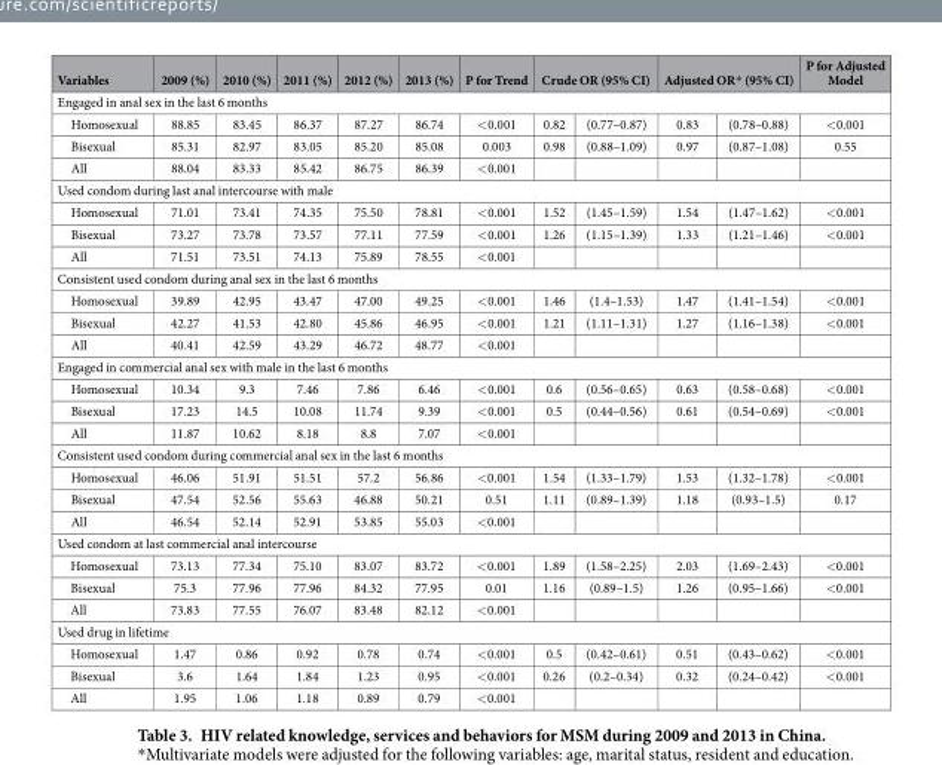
<table><thead><tr><td>Variables</td><td>2009 (%)</td><td>2010 (%)</td><td>2011 (%)</td><td>2012 (%)</td><td>2013 (%)</td><td>P for Trend</td><td colspan="2">Crude OR (95% CI)</td><td colspan="2">Adjusted OR* (95% CI)</td><td>P for Adjusted Model</td></tr><tr><td colspan="12">Engaged in anal sex in the last 6 months</td></tr><tr><td>Homosexual</td><td>88.85</td><td>83.45</td><td>86.37</td><td>87.27</td><td>86.74</td><td>&lt; 0.001</td><td>0.82</td><td>(0.77–0.87)</td><td>0.83</td><td>(0.78–0.88)</td><td>&lt; 0.001</td></tr></thead><tbody><tr><td>Bisexual</td><td>85.31</td><td>82.97</td><td>83.05</td><td>85.20</td><td>85.08</td><td>0.003</td><td>0.98</td><td>(0.88–1.09)</td><td>0.97</td><td>(0.87–1.08)</td><td>0.55</td></tr><tr><td>All</td><td>88.04</td><td>83.33</td><td>85.42</td><td>86.75</td><td>86.39</td><td>&lt; 0.001</td><td></td><td></td><td></td><td></td><td></td></tr><tr><td colspan="12">Used condom during last anal intercourse with male</td></tr><tr><td>Homosexual</td><td>71.01</td><td>73.41</td><td>74.35</td><td>75.50</td><td>78.81</td><td>&lt; 0.001</td><td>1.52</td><td>(1.45–1.59)</td><td>1.54</td><td>(1.47–1.62)</td><td>&lt; 0.001</td></tr><tr><td>Bisexual</td><td>73.27</td><td>73.78</td><td>73.57</td><td>77.11</td><td>77.59</td><td>&lt; 0.001</td><td>1.26</td><td>(1.15–1.39)</td><td>1.33</td><td>(1.21–1.46)</td><td>&lt; 0.001</td></tr><tr><td>All</td><td>71.51</td><td>73.51</td><td>74.13</td><td>75.89</td><td>78.55</td><td>&lt; 0.001</td><td></td><td></td><td></td><td></td><td></td></tr><tr><td colspan="12">Consistent used condom during anal sex in the last 6 months</td></tr><tr><td>Homosexual</td><td>39.89</td><td>42.95</td><td>43.47</td><td>47.00</td><td>49.25</td><td>&lt; 0.001</td><td>1.46</td><td>(1.4–1.53)</td><td>1.47</td><td>(1.41–1.54)</td><td>&lt; 0.001</td></tr><tr><td>Bisexual</td><td>42.27</td><td>41.53</td><td>42.80</td><td>45.86</td><td>46.95</td><td>&lt; 0.001</td><td>1.21</td><td>(1.11–1.31)</td><td>1.27</td><td>(1.16–1.38)</td><td>&lt; 0.001</td></tr><tr><td>All</td><td>40.41</td><td>42.59</td><td>43.29</td><td>46.72</td><td>48.77</td><td>&lt; 0.001</td><td></td><td></td><td></td><td></td><td></td></tr><tr><td colspan="12">Engaged in commercial anal sex with male in the last 6 months</td></tr><tr><td>Homosexual</td><td>10.34</td><td>9.3</td><td>7.46</td><td>7.86</td><td>6.46</td><td>&lt; 0.001</td><td>0.6</td><td>(0.56–0.65)</td><td>0.63</td><td>(0.58–0.68)</td><td>&lt; 0.001</td></tr><tr><td>Bisexual</td><td>17.23</td><td>14.5</td><td>10.08</td><td>11.74</td><td>9.39</td><td>&lt; 0.001</td><td>0.5</td><td>(0.44–0.56)</td><td>0.61</td><td>(0.54–0.69)</td><td>&lt; 0.001</td></tr><tr><td>All</td><td>11.87</td><td>10.62</td><td>8.18</td><td>8.8</td><td>7.07</td><td>&lt; 0.001</td><td></td><td></td><td></td><td></td><td></td></tr><tr><td colspan="12">Consistent used condom during commercial anal sex in the last 6 months</td></tr><tr><td>Homosexual</td><td>46.06</td><td>51.91</td><td>51.51</td><td>57.2</td><td>56.86</td><td>&lt; 0.001</td><td>1.54</td><td>(1.33–1.79)</td><td>1.53</td><td>(1.32–1.78)</td><td>&lt; 0.001</td></tr><tr><td>Bisexual</td><td>47.54</td><td>52.56</td><td>55.63</td><td>46.88</td><td>50.21</td><td>0.51</td><td>1.11</td><td>(0.89–1.39)</td><td>1.18</td><td>(0.93–1.5)</td><td>0.17</td></tr><tr><td>All</td><td>46.54</td><td>52.14</td><td>52.91</td><td>53.85</td><td>55.03</td><td>&lt; 0.001</td><td></td><td></td><td></td><td></td><td></td></tr><tr><td colspan="12">Used condom at last commercial anal intercourse</td></tr><tr><td>Homosexual</td><td>73.13</td><td>77.34</td><td>75.10</td><td>83.07</td><td>83.72</td><td>&lt; 0.001</td><td>1.89</td><td>(1.58–2.25)</td><td>2.03</td><td>(1.69–2.43)</td><td>&lt; 0.001</td></tr><tr><td>Bisexual</td><td>75.3</td><td>77.96</td><td>77.96</td><td>84.32</td><td>77.95</td><td>0.01</td><td>1.16</td><td>(0.89–1.5)</td><td>1.26</td><td>(0.95–1.66)</td><td>&lt; 0.001</td></tr><tr><td>All</td><td>73.83</td><td>77.55</td><td>76.07</td><td>83.48</td><td>82.12</td><td>&lt; 0.001</td><td></td><td></td><td></td><td></td><td></td></tr><tr><td colspan="12">Used drug in lifetime</td></tr><tr><td>Homosexual</td><td>1.47</td><td>0.86</td><td>0.92</td><td>0.78</td><td>0.74</td><td>&lt; 0.001</td><td>0.5</td><td>(0.42–0.61)</td><td>0.51</td><td>(0.43–0.62)</td><td>&lt; 0.001</td></tr><tr><td>Bisexual</td><td>3.6</td><td>1.64</td><td>1.84</td><td>1.23</td><td>0.95</td><td>&lt; 0.001</td><td>0.26</td><td>(0.2–0.34)</td><td>0.32</td><td>(0.24–0.42)</td><td>&lt; 0.001</td></tr><tr><td>All</td><td>1.95</td><td>1.06</td><td>1.18</td><td>0.89</td><td>0.79</td><td>&lt; 0.001</td><td></td><td></td><td></td><td></td><td></td></tr></tbody></table>